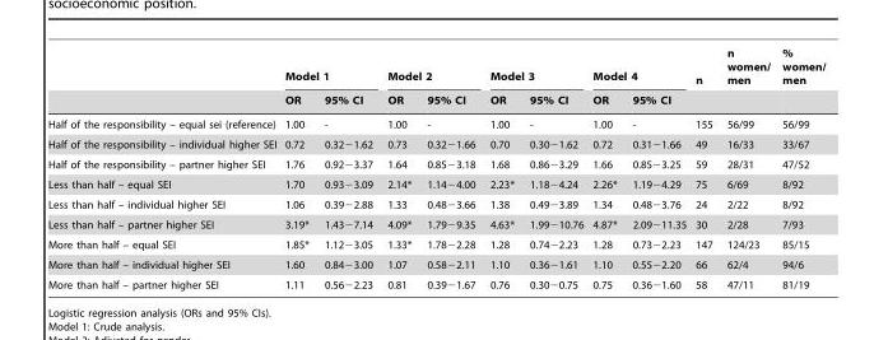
<table><thead><tr><td rowspan="2"></td><td colspan="2">Model 1</td><td colspan="2">Model 2</td><td colspan="2">Model 3</td><td colspan="2">Model 4</td><td rowspan="2">n</td><td rowspan="2">n women/ men</td><td rowspan="2">% women/ men</td></tr><tr><td>OR</td><td>95% CI</td><td>OR</td><td>95% CI</td><td>OR</td><td>95% CI</td><td>OR</td><td>95% CI</td></tr></thead><tbody><tr><td>Half of the responsibility – equal sei (reference)</td><td>1.00</td><td>-</td><td>1.00</td><td>-</td><td>1.00</td><td>-</td><td>1.00</td><td>-</td><td>155</td><td>56/99</td><td>56/99</td></tr><tr><td>Half of the responsibility – individual higher SEI</td><td>0.72</td><td>0.32−1.62</td><td>0.73</td><td>0.32−1.66</td><td>0.70</td><td>0.30−1.62</td><td>0.72</td><td>0.31−1.66</td><td>49</td><td>16/33</td><td>33/67</td></tr><tr><td>Half of the responsibility – partner higher SEI</td><td>1.76</td><td>0.92−3.37</td><td>1.64</td><td>0.85−3.18</td><td>1.68</td><td>0.86−3.29</td><td>1.66</td><td>0.85−3.25</td><td>59</td><td>28/31</td><td>47/52</td></tr><tr><td>Less than half – equal SEI</td><td>1.70</td><td>0.93−3.09</td><td>2.14*</td><td>1.14−4.00</td><td>2.23*</td><td>1.18−4.24</td><td>2.26*</td><td>1.19−4.29</td><td>75</td><td>6/69</td><td>8/92</td></tr><tr><td>Less than half – individual higher SEI</td><td>1.06</td><td>0.39−2.88</td><td>1.33</td><td>0.48−3.66</td><td>1.38</td><td>0.49−3.89</td><td>1.34</td><td>0.48−3.76</td><td>24</td><td>2/22</td><td>8/92</td></tr><tr><td>Less than half – partner higher SEI</td><td>3.19*</td><td>1.43−7.14</td><td>4.09*</td><td>1.79−9.35</td><td>4.63*</td><td>1.99−10.76</td><td>4.87*</td><td>2.09−11.35</td><td>30</td><td>2/28</td><td>7/93</td></tr><tr><td>More than half – equal SEI</td><td>1.85*</td><td>1.12−3.05</td><td>1.33*</td><td>1.78−2.28</td><td>1.28</td><td>0.74−2.23</td><td>1.28</td><td>0.73−2.23</td><td>147</td><td>124/23</td><td>85/15</td></tr><tr><td>More than half – individual higher SEI</td><td>1.60</td><td>0.84−3.00</td><td>1.07</td><td>0.58−2.11</td><td>1.10</td><td>0.36−1.61</td><td>1.10</td><td>0.55−2.20</td><td>66</td><td>62/4</td><td>94/6</td></tr><tr><td>More than half – partner higher SEI</td><td>1.11</td><td>0.56−2.23</td><td>0.81</td><td>0.39−1.67</td><td>0.76</td><td>0.30−0.75</td><td>0.75</td><td>0.36−1.60</td><td>58</td><td>47/11</td><td>81/19</td></tr></tbody></table>